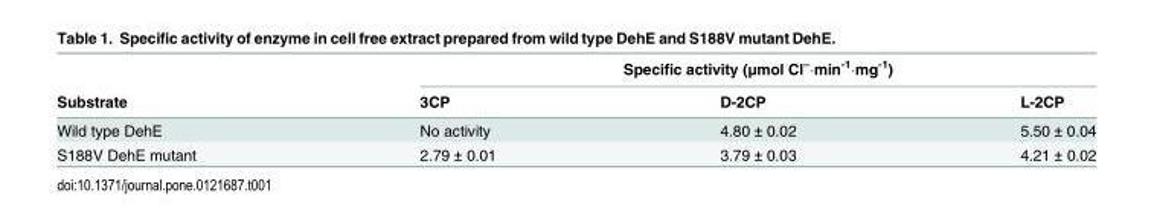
<table><thead><tr><td rowspan="2">Substrate</td><td colspan="3">Specific activity (μmol Cl<sup>–</sup>·min<sup>-1</sup>·mg<sup>-1</sup>)</td></tr><tr><td>3CP</td><td>D-2CP</td><td>L-2CP</td></tr></thead><tbody><tr><td>Wild type DehE</td><td>No activity</td><td>4.80 ± 0.02</td><td>5.50 ± 0.04</td></tr><tr><td>S188V DehE mutant</td><td>2.79 ± 0.01</td><td>3.79 ± 0.03</td><td>4.21 ± 0.02</td></tr></tbody></table>